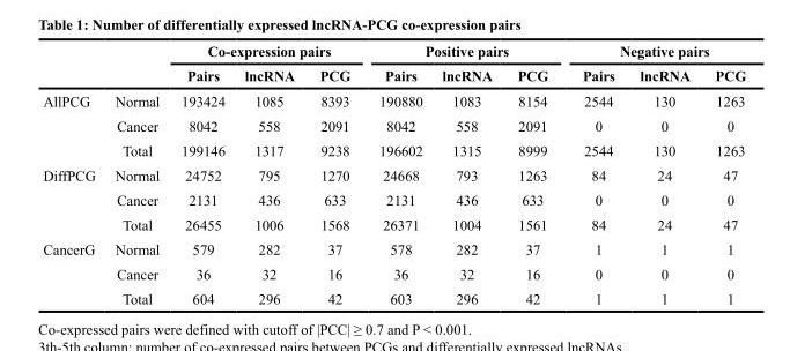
<table><thead><tr><td rowspan="2"></td><td rowspan="2"></td><td colspan="3">Co-expression pairs</td><td colspan="3">Positive pairs</td><td colspan="3">Negative pairs</td></tr><tr><td>Pairs</td><td>lncRNA</td><td>PCG</td><td>Pairs</td><td>lncRNA</td><td>PCG</td><td>Pairs</td><td>lncRNA</td><td>PCG</td></tr></thead><tbody><tr><td rowspan="3">AllPCG</td><td>Normal</td><td>193424</td><td>1085</td><td>8393</td><td>190880</td><td>1083</td><td>8154</td><td>2544</td><td>130</td><td>1263</td></tr><tr><td>Cancer</td><td>8042</td><td>558</td><td>2091</td><td>8042</td><td>558</td><td>2091</td><td>0</td><td>0</td><td>0</td></tr><tr><td>Total</td><td>199146</td><td>1317</td><td>9238</td><td>196602</td><td>1315</td><td>8999</td><td>2544</td><td>130</td><td>1263</td></tr><tr><td rowspan="3">DiffPCG</td><td>Normal</td><td>24752</td><td>795</td><td>1270</td><td>24668</td><td>793</td><td>1263</td><td>84</td><td>24</td><td>47</td></tr><tr><td>Cancer</td><td>2131</td><td>436</td><td>633</td><td>2131</td><td>436</td><td>633</td><td>0</td><td>0</td><td>0</td></tr><tr><td>Total</td><td>26455</td><td>1006</td><td>1568</td><td>26371</td><td>1004</td><td>1561</td><td>84</td><td>24</td><td>47</td></tr><tr><td rowspan="3">CancerG</td><td>Normal</td><td>579</td><td>282</td><td>37</td><td>578</td><td>282</td><td>37</td><td>1</td><td>1</td><td>1</td></tr><tr><td>Cancer</td><td>36</td><td>32</td><td>16</td><td>36</td><td>32</td><td>16</td><td>0</td><td>0</td><td>0</td></tr><tr><td>Total</td><td>604</td><td>296</td><td>42</td><td>603</td><td>296</td><td>42</td><td>1</td><td>1</td><td>1</td></tr></tbody></table>